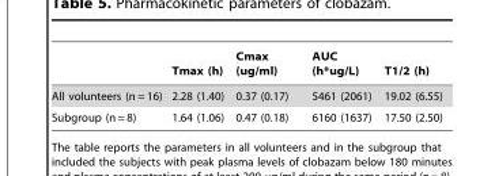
<table><thead><tr><td></td><td>Tmax (h)</td><td>Cmax (ug/ml)</td><td>AUC (h*ug/L)</td><td>T1/2 (h)</td></tr></thead><tbody><tr><td>All volunteers (n = 16)</td><td>2.28 (1.40)</td><td>0.37 (0.17)</td><td>5461 (2061)</td><td>19.02 (6.55)</td></tr><tr><td>Subgroup (n = 8)</td><td>1.64 (1.06)</td><td>0.47 (0.18)</td><td>6160 (1637)</td><td>17.50 (2.50)</td></tr></tbody></table>